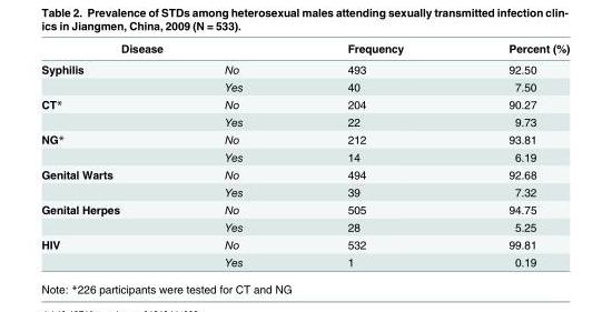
<table><thead><tr><td colspan="2">Disease</td><td rowspan="2">Frequency 493</td><td rowspan="2">Percent (%) 92.50</td></tr><tr><td>Syphilis</td><td>No</td></tr></thead><tbody><tr><td></td><td>Yes</td><td>40</td><td>7.50</td></tr><tr><td rowspan="2">CT*</td><td>No</td><td>204</td><td>90.27</td></tr><tr><td>Yes</td><td>22</td><td>9.73</td></tr><tr><td rowspan="2">NG*</td><td>No</td><td>212</td><td>93.81</td></tr><tr><td>Yes</td><td>14</td><td>6.19</td></tr><tr><td rowspan="2">Genital Warts</td><td>No</td><td>494</td><td>92.68</td></tr><tr><td>Yes</td><td>39</td><td>7.32</td></tr><tr><td rowspan="2">Genital Herpes</td><td>No</td><td>505</td><td>94.75</td></tr><tr><td>Yes</td><td>28</td><td>5.25</td></tr><tr><td rowspan="2">HIV</td><td>No</td><td>532</td><td>99.81</td></tr><tr><td>Yes</td><td>1</td><td>0.19</td></tr></tbody></table>